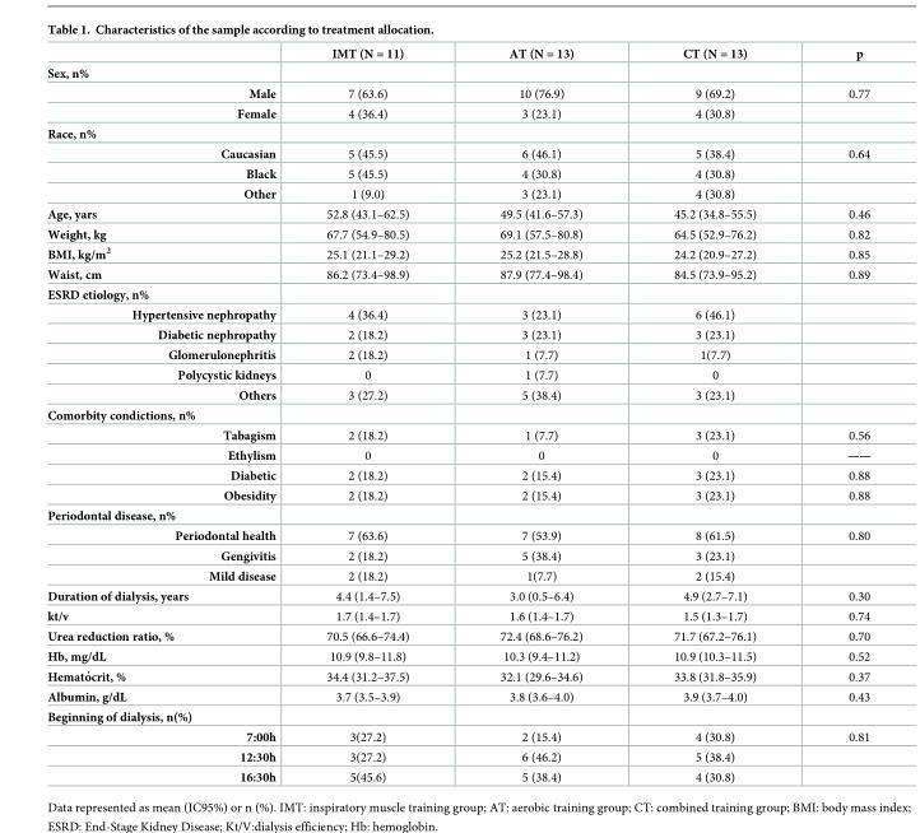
<table><thead><tr><td></td><td>IMT (N = 11)</td><td>AT (N = 13)</td><td>CT (N = 13)</td><td>p</td></tr></thead><tbody><tr><td colspan="5">Sex, n%</td></tr><tr><td>Male</td><td>7 (63.6)</td><td>10 (76.9)</td><td>9 (69.2)</td><td>0.77</td></tr><tr><td>Female</td><td>4 (36.4)</td><td>3 (23.1)</td><td>4 (30.8)</td><td></td></tr><tr><td colspan="5">Race, n%</td></tr><tr><td>Caucasian</td><td>5 (45.5)</td><td>6 (46.1)</td><td>5 (38.4)</td><td>0.64</td></tr><tr><td>Black</td><td>5 (45.5)</td><td>4 (30.8)</td><td>4 (30.8)</td><td></td></tr><tr><td>Other</td><td>1 (9.0)</td><td>3 (23.1)</td><td>4 (30.8)</td><td></td></tr><tr><td>Age, yars</td><td>52.8 (43.1–62.5)</td><td>49.5 (41.6–57.3)</td><td>45.2 (34.8–55.5)</td><td>0.46</td></tr><tr><td>Weight, kg</td><td>67.7 (54.9–80.5)</td><td>69.1 (57.5–80.8)</td><td>64.5 (52.9–76.2)</td><td>0.82</td></tr><tr><td>BMI, kg/m<sup>2</sup></td><td>25.1 (21.1–29.2)</td><td>25.2 (21.5–28.8)</td><td>24.2 (20.9–27.2)</td><td>0.85</td></tr><tr><td>Waist, cm</td><td>86.2 (73.4–98.9)</td><td>87.9 (77.4–98.4)</td><td>84.5 (73.9–95.2)</td><td>0.89</td></tr><tr><td colspan="5">ESRD etiology, n%</td></tr><tr><td>Hypertensive nephropathy</td><td>4 (36.4)</td><td>3 (23.1)</td><td>6 (46.1)</td><td></td></tr><tr><td>Diabetic nephropathy</td><td>2 (18.2)</td><td>3 (23.1)</td><td>3 (23.1)</td><td></td></tr><tr><td>Glomerulonephritis</td><td>2 (18.2)</td><td>1 (7.7)</td><td>1(7.7)</td><td></td></tr><tr><td>Polycystic kidneys</td><td>0</td><td>1 (7.7)</td><td>0</td><td></td></tr><tr><td>Others</td><td>3 (27.2)</td><td>5 (38.4)</td><td>3 (23.1)</td><td></td></tr><tr><td colspan="5">Comorbity condictions, n%</td></tr><tr><td>Tabagism</td><td>2 (18.2)</td><td>1 (7.7)</td><td>3 (23.1)</td><td>0.56</td></tr><tr><td>Ethylism</td><td>0</td><td>0</td><td>0</td><td>——</td></tr><tr><td>Diabetic</td><td>2 (18.2)</td><td>2 (15.4)</td><td>3 (23.1)</td><td>0.88</td></tr><tr><td>Obesidity</td><td>2 (18.2)</td><td>2 (15.4)</td><td>3 (23.1)</td><td>0.88</td></tr><tr><td colspan="5">Periodontal disease, n%</td></tr><tr><td>Periodontal health</td><td>7 (63.6)</td><td>7 (53.9)</td><td>8 (61.5)</td><td>0.80</td></tr><tr><td>Gengivitis</td><td>2 (18.2)</td><td>5 (38.4)</td><td>3 (23.1)</td><td></td></tr><tr><td>Mild disease</td><td>2 (18.2)</td><td>1(7.7)</td><td>2 (15.4)</td><td></td></tr><tr><td>Duration of dialysis, years</td><td>4.4 (1.4–7.5)</td><td>3.0 (0.5–6.4)</td><td>4.9 (2.7–7.1)</td><td>0.30</td></tr><tr><td>kt/v</td><td>1.7 (1.4–1.7)</td><td>1.6 (1.4–1.7)</td><td>1.5 (1.3–1.7)</td><td>0.74</td></tr><tr><td>Urea reduction ratio, %</td><td>70.5 (66.6–74.4)</td><td>72.4 (68.6–76.2)</td><td>71.7 (67.2–76.1)</td><td>0.70</td></tr><tr><td>Hb, mg/dL</td><td>10.9 (9.8–11.8)</td><td>10.3 (9.4–11.2)</td><td>10.9 (10.3–11.5)</td><td>0.52</td></tr><tr><td>Hemato´crit, %</td><td>34.4 (31.2–37.5)</td><td>32.1 (29.6–34.6)</td><td>33.8 (31.8–35.9)</td><td>0.37</td></tr><tr><td>Albumin, g/dL</td><td>3.7 (3.5–3.9)</td><td>3.8 (3.6–4.0)</td><td>3.9 (3.7–4.0)</td><td>0.43</td></tr><tr><td colspan="5">Beginning of dialysis, n(%)</td></tr><tr><td>7:00h</td><td>3(27.2)</td><td>2 (15.4)</td><td>4 (30.8)</td><td>0.81</td></tr><tr><td>12:30h</td><td>3(27.2)</td><td>6 (46.2)</td><td>5 (38.4)</td><td></td></tr><tr><td>16:30h</td><td>5(45.6)</td><td>5 (38.4)</td><td>4 (30.8)</td><td></td></tr></tbody></table>